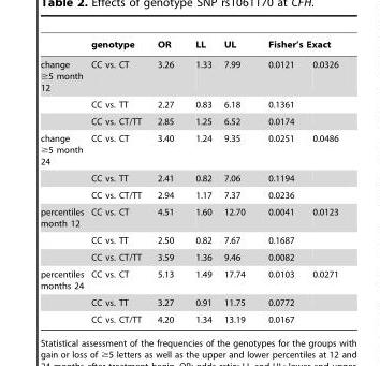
<table><thead><tr><td rowspan="2">change ≥5 month 12</td><td rowspan="2">genotype CC vs. CT</td><td rowspan="2">OR 3.26</td><td rowspan="2">LL 1.33</td><td rowspan="2">UL 7.99</td><td colspan="2">Fisher’s Exact</td></tr><tr><td>0.0121</td><td>0.0326</td></tr></thead><tbody><tr><td></td><td>CC vs. TT</td><td>2.27</td><td>0.83</td><td>6.18</td><td>0.1361</td><td></td></tr><tr><td></td><td>CC vs. CT/TT</td><td>2.85</td><td>1.25</td><td>6.52</td><td>0.0174</td><td></td></tr><tr><td rowspan="3">change ≥5 month 24</td><td>CC vs. CT</td><td>3.40</td><td>1.24</td><td>9.35</td><td>0.0251</td><td>0.0486</td></tr><tr><td>CC vs. TT</td><td>2.41</td><td>0.82</td><td>7.06</td><td>0.1194</td><td></td></tr><tr><td>CC vs. CT/TT</td><td>2.94</td><td>1.17</td><td>7.37</td><td>0.0236</td><td></td></tr><tr><td rowspan="3">percentiles month 12</td><td>CC vs. CT</td><td>4.51</td><td>1.60</td><td>12.70</td><td>0.0041</td><td>0.0123</td></tr><tr><td>CC vs. TT</td><td>2.50</td><td>0.82</td><td>7.67</td><td>0.1687</td><td></td></tr><tr><td>CC vs. CT/TT</td><td>3.59</td><td>1.36</td><td>9.46</td><td>0.0082</td><td></td></tr><tr><td rowspan="3">percentiles months 24</td><td>CC vs. CT</td><td>5.13</td><td>1.49</td><td>17.74</td><td>0.0103</td><td>0.0271</td></tr><tr><td>CC vs. TT</td><td>3.27</td><td>0.91</td><td>11.75</td><td>0.0772</td><td></td></tr><tr><td>CC vs. CT/TT</td><td>4.20</td><td>1.34</td><td>13.19</td><td>0.0167</td><td></td></tr></tbody></table>